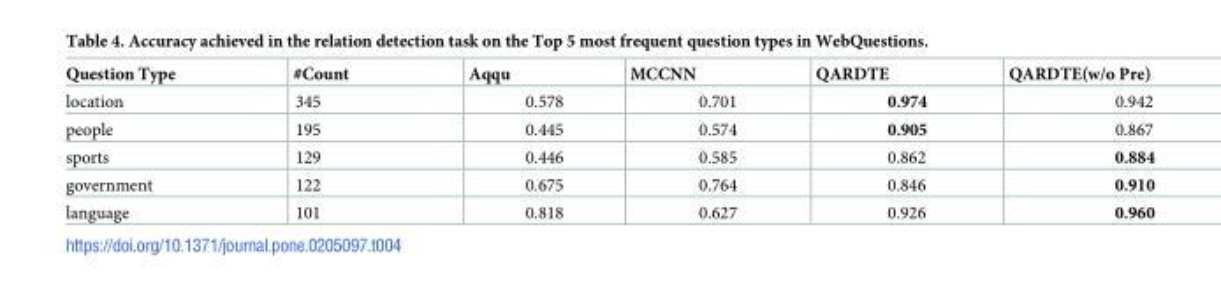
<table><thead><tr><td>Question Type</td><td>#Count</td><td>Aqqu</td><td>MCCNN</td><td>QARDTE</td><td>QARDTE(w/o Pre)</td></tr></thead><tbody><tr><td>location</td><td>345</td><td>0.578</td><td>0.701</td><td>0.974</td><td>0.942</td></tr><tr><td>people</td><td>195</td><td>0.445</td><td>0.574</td><td>0.905</td><td>0.867</td></tr><tr><td>sports</td><td>129</td><td>0.446</td><td>0.585</td><td>0.862</td><td>0.884</td></tr><tr><td>government</td><td>122</td><td>0.675</td><td>0.764</td><td>0.846</td><td>0.910</td></tr><tr><td>language</td><td>101</td><td>0.818</td><td>0.627</td><td>0.926</td><td>0.960</td></tr></tbody></table>